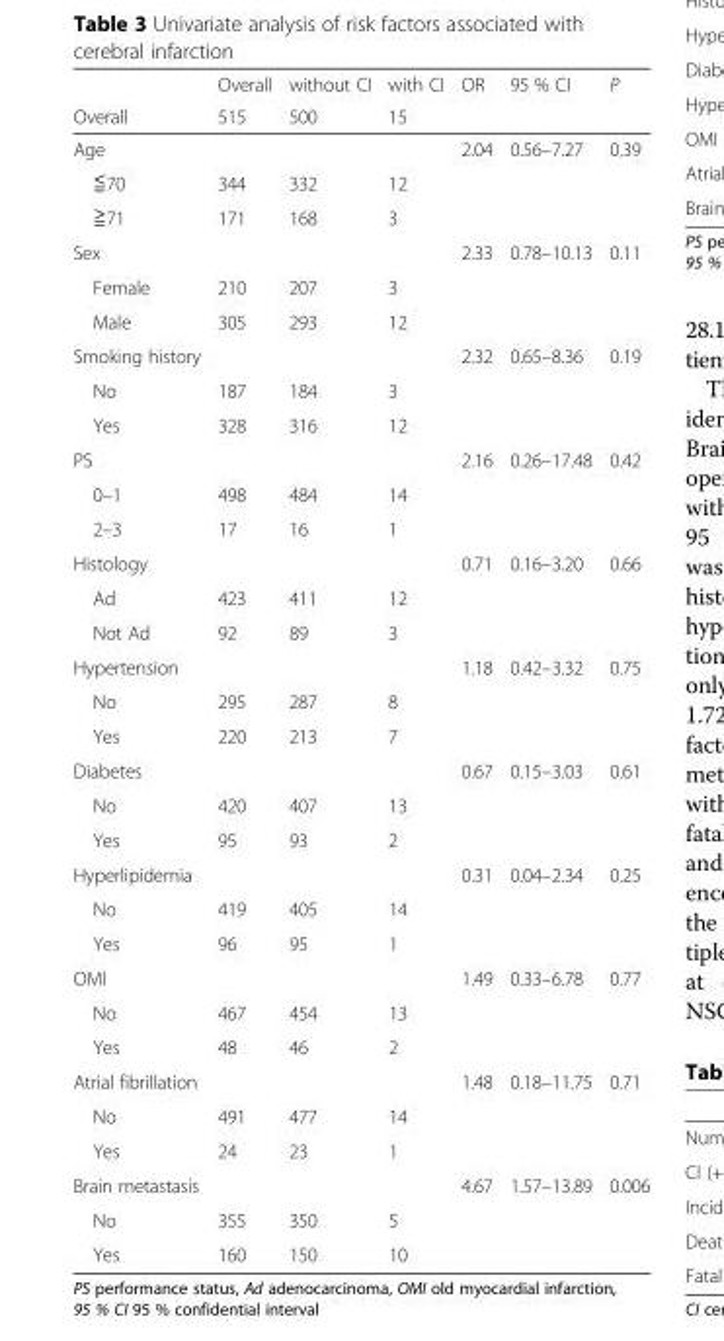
<table><thead><tr><td rowspan="2">Overall</td><td rowspan="2">Overall 515</td><td rowspan="2">without CI 500</td><td rowspan="2">with CI 15</td><td rowspan="2">OR</td><td rowspan="2">95 % CI</td><td rowspan="2">P</td></tr><tr></tr></thead><tbody><tr><td>Age</td><td></td><td></td><td></td><td>2.04</td><td>0.56–7.27</td><td>0.39</td></tr><tr><td>≦70</td><td>344</td><td>332</td><td>12</td><td></td><td></td><td></td></tr><tr><td>≧71</td><td>171</td><td>168</td><td>3</td><td></td><td></td><td></td></tr><tr><td>Sex</td><td></td><td></td><td></td><td>2.33</td><td>0.78–10.13</td><td>0.11</td></tr><tr><td>Female</td><td>210</td><td>207</td><td>3</td><td></td><td></td><td></td></tr><tr><td>Male</td><td>305</td><td>293</td><td>12</td><td></td><td></td><td></td></tr><tr><td>Smoking history</td><td></td><td></td><td></td><td>2.32</td><td>0.65–8.36</td><td>0.19</td></tr><tr><td>No</td><td>187</td><td>184</td><td>3</td><td></td><td></td><td></td></tr><tr><td>Yes</td><td>328</td><td>316</td><td>12</td><td></td><td></td><td></td></tr><tr><td>PS</td><td></td><td></td><td></td><td>2.16</td><td>0.26–17.48</td><td>0.42</td></tr><tr><td>0–1</td><td>498</td><td>484</td><td>14</td><td></td><td></td><td></td></tr><tr><td>2–3</td><td>17</td><td>16</td><td>1</td><td></td><td></td><td></td></tr><tr><td>Histology</td><td></td><td></td><td></td><td>0.71</td><td>0.16–3.20</td><td>0.66</td></tr><tr><td>Ad</td><td>423</td><td>411</td><td>12</td><td></td><td></td><td></td></tr><tr><td>Not Ad</td><td>92</td><td>89</td><td>3</td><td></td><td></td><td></td></tr><tr><td>Hypertension</td><td></td><td></td><td></td><td>1.18</td><td>0.42–3.32</td><td>0.75</td></tr><tr><td>No</td><td>295</td><td>287</td><td>8</td><td></td><td></td><td></td></tr><tr><td>Yes</td><td>220</td><td>213</td><td>7</td><td></td><td></td><td></td></tr><tr><td>Diabetes</td><td></td><td></td><td></td><td>0.67</td><td>0.15–3.03</td><td>0.61</td></tr><tr><td>No</td><td>420</td><td>407</td><td>13</td><td></td><td></td><td></td></tr><tr><td>Yes</td><td>95</td><td>93</td><td>2</td><td></td><td></td><td></td></tr><tr><td>Hyperlipidemia</td><td></td><td></td><td></td><td>0.31</td><td>0.04–2.34</td><td>0.25</td></tr><tr><td>No</td><td>419</td><td>405</td><td>14</td><td></td><td></td><td></td></tr><tr><td>Yes</td><td>96</td><td>95</td><td>1</td><td></td><td></td><td></td></tr><tr><td>OMI</td><td></td><td></td><td></td><td>1.49</td><td>0.33–6.78</td><td>0.77</td></tr><tr><td>No</td><td>467</td><td>454</td><td>13</td><td></td><td></td><td></td></tr><tr><td>Yes</td><td>48</td><td>46</td><td>2</td><td></td><td></td><td></td></tr><tr><td>Atrial fibrillation</td><td></td><td></td><td></td><td>1.48</td><td>0.18–11.75</td><td>0.71</td></tr><tr><td>No</td><td>491</td><td>477</td><td>14</td><td></td><td></td><td></td></tr><tr><td>Yes</td><td>24</td><td>23</td><td>1</td><td></td><td></td><td></td></tr><tr><td>Brain metastasis</td><td></td><td></td><td></td><td>4.67</td><td>1.57–13.89</td><td>0.006</td></tr><tr><td>No</td><td>355</td><td>350</td><td>5</td><td></td><td></td><td></td></tr><tr><td>Yes</td><td>160</td><td>150</td><td>10</td><td></td><td></td><td></td></tr></tbody></table>